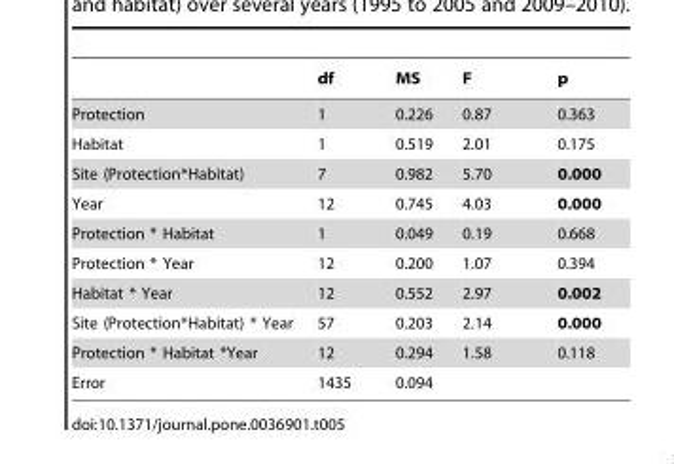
<table><thead><tr><td></td><td>df</td><td>MS</td><td>F</td><td>p</td></tr></thead><tbody><tr><td>Protection</td><td>1</td><td>0.226</td><td>0.87</td><td>0.363</td></tr><tr><td>Habitat</td><td>1</td><td>0.519</td><td>2.01</td><td>0.175</td></tr><tr><td>Site (Protection*Habitat)</td><td>7</td><td>0.982</td><td>5.70</td><td>0.000</td></tr><tr><td>Year</td><td>12</td><td>0.745</td><td>4.03</td><td>0.000</td></tr><tr><td>Protection * Habitat</td><td>1</td><td>0.049</td><td>0.19</td><td>0.668</td></tr><tr><td>Protection * Year</td><td>12</td><td>0.200</td><td>1.07</td><td>0.394</td></tr><tr><td>Habitat * Year</td><td>12</td><td>0.552</td><td>2.97</td><td>0.002</td></tr><tr><td>Site (Protection*Habitat) * Year</td><td>57</td><td>0.203</td><td>2.14</td><td>0.000</td></tr><tr><td>Protection * Habitat *Year</td><td>12</td><td>0.294</td><td>1.58</td><td>0.118</td></tr><tr><td>Error</td><td>1435</td><td>0.094</td><td></td><td></td></tr></tbody></table>